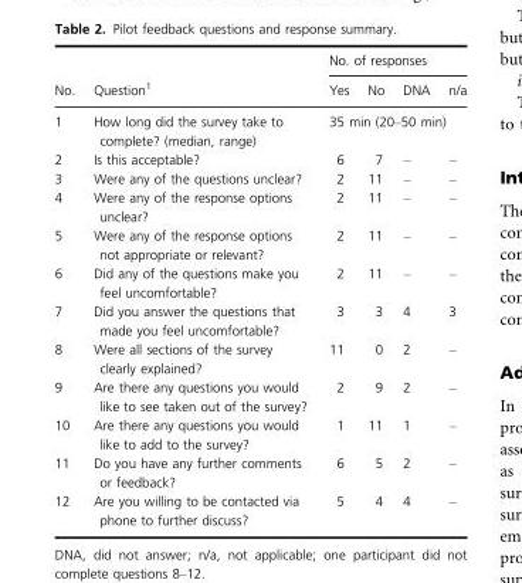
<table><thead><tr><td rowspan="2">No.</td><td rowspan="2">Question1</td><td colspan="4">No. of responses</td></tr><tr><td>Yes</td><td>No</td><td>DNA</td><td>n/a</td></tr></thead><tbody><tr><td>1</td><td>How long did the survey take to complete? (median, range)</td><td colspan="4">35 min (20–50 min)</td></tr><tr><td>2</td><td>Is this acceptable?</td><td>6</td><td>7</td><td>–</td><td>–</td></tr><tr><td>3</td><td>Were any of the questions unclear?</td><td>2</td><td>11</td><td>–</td><td>–</td></tr><tr><td>4</td><td>Were any of the response options unclear?</td><td>2</td><td>11</td><td>–</td><td>–</td></tr><tr><td>5</td><td>Were any of the response options not appropriate or relevant?</td><td>2</td><td>11</td><td>–</td><td>–</td></tr><tr><td>6</td><td>Did any of the questions make you feel uncomfortable?</td><td>2</td><td>11</td><td>–</td><td>–</td></tr><tr><td>7</td><td>Did you answer the questions that made you feel uncomfortable?</td><td>3</td><td>3</td><td>4</td><td>3</td></tr><tr><td>8</td><td>Were all sections of the survey clearly explained?</td><td>11</td><td>0</td><td>2</td><td>–</td></tr><tr><td>9</td><td>Are there any questions you would like to see taken out of the survey?</td><td>2</td><td>9</td><td>2</td><td>–</td></tr><tr><td>10</td><td>Are there any questions you would like to add to the survey?</td><td>1</td><td>11</td><td>1</td><td>–</td></tr><tr><td>11</td><td>Do you have any further comments or feedback?</td><td>6</td><td>5</td><td>2</td><td>–</td></tr><tr><td>12</td><td>Are you willing to be contacted via phone to further discuss?</td><td>5</td><td>4</td><td>4</td><td>–</td></tr></tbody></table>